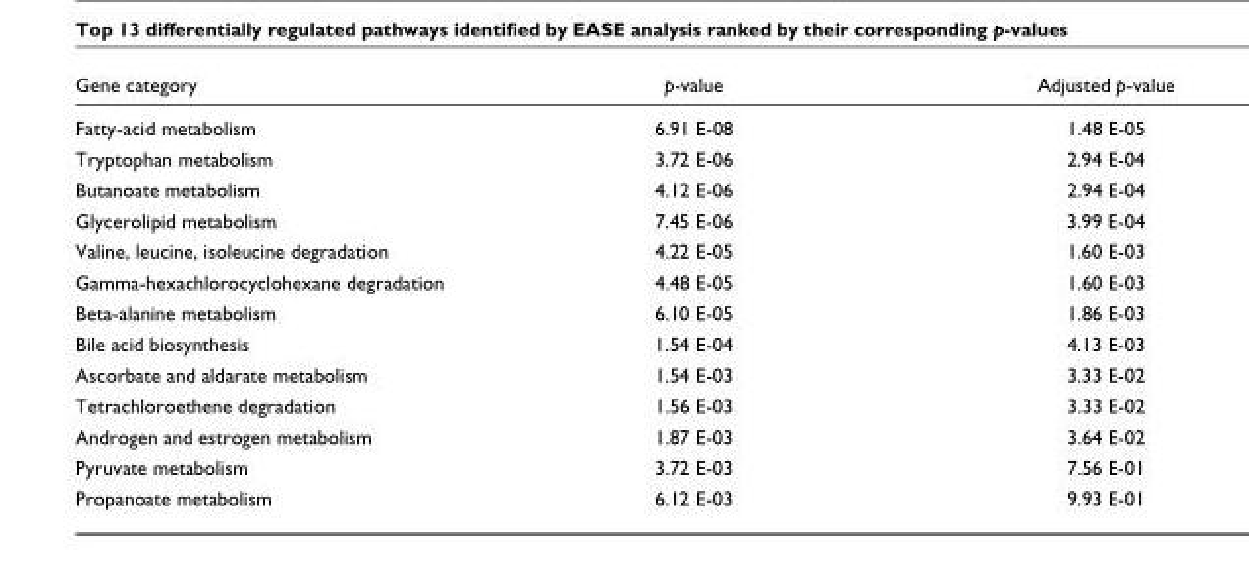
<table><thead><tr><td>Gene category</td><td>p-value</td><td>Adjusted p-value</td></tr></thead><tbody><tr><td>Fatty-acid metabolism</td><td>6.91 E-08</td><td>1.48 E-05</td></tr><tr><td>Tryptophan metabolism</td><td>3.72 E-06</td><td>2.94 E-04</td></tr><tr><td>Butanoate metabolism</td><td>4.12 E-06</td><td>2.94 E-04</td></tr><tr><td>Glycerolipid metabolism</td><td>7.45 E-06</td><td>3.99 E-04</td></tr><tr><td>Valine, leucine, isoleucine degradation</td><td>4.22 E-05</td><td>1.60 E-03</td></tr><tr><td>Gamma-hexachlorocyclohexane degradation</td><td>4.48 E-05</td><td>1.60 E-03</td></tr><tr><td>Beta-alanine metabolism</td><td>6.10 E-05</td><td>1.86 E-03</td></tr><tr><td>Bile acid biosynthesis</td><td>1.54 E-04</td><td>4.13 E-03</td></tr><tr><td>Ascorbate and aldarate metabolism</td><td>1.54 E-03</td><td>3.33 E-02</td></tr><tr><td>Tetrachloroethene degradation</td><td>1.56 E-03</td><td>3.33 E-02</td></tr><tr><td>Androgen and estrogen metabolism</td><td>1.87 E-03</td><td>3.64 E-02</td></tr><tr><td>Pyruvate metabolism</td><td>3.72 E-03</td><td>7.56 E-01</td></tr><tr><td>Propanoate metabolism</td><td>6.12 E-03</td><td>9.93 E-01</td></tr></tbody></table>